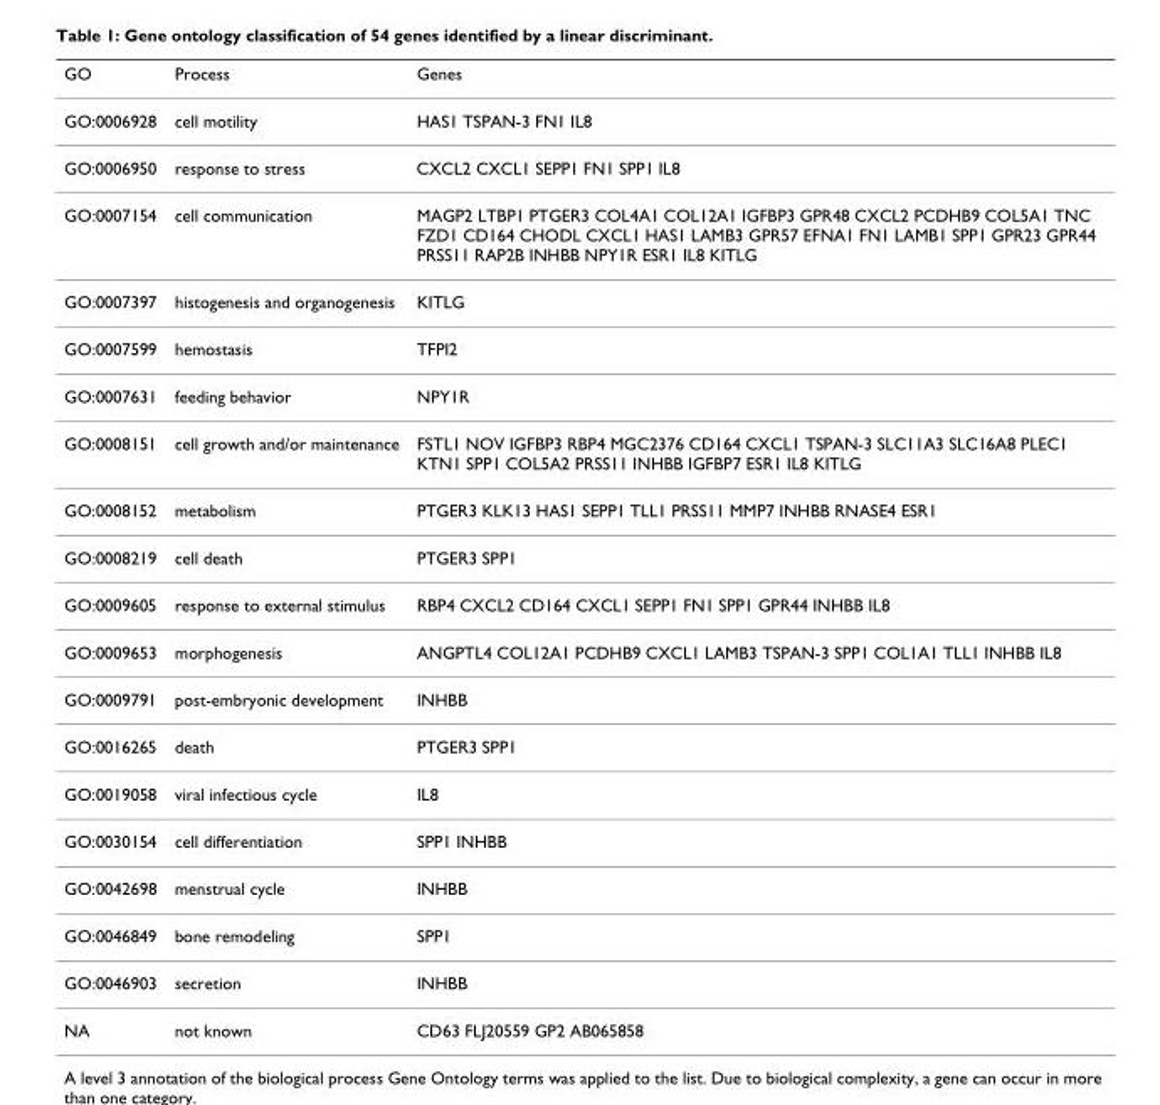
<table><thead><tr><td>GO</td><td>Process</td><td>Genes</td></tr></thead><tbody><tr><td>GO:0006928</td><td>cell motility</td><td>HAS1 TSPAN-3 FN1 IL8</td></tr><tr><td>GO:0006950</td><td>response to stress</td><td>CXCL2 CXCL1 SEPP1 FN1 SPP1 IL8</td></tr><tr><td>GO:0007154</td><td>cell communication</td><td>MAGP2 LTBP1 PTGER3 COL4A1 COL12A1 IGFBP3 GPR48 CXCL2 PCDHB9 COL5A1 TNC FZD1 CD164 CHODL CXCL1 HAS1 LAMB3 GPR57 EFNA1 FN1 LAMB1 SPP1 GPR23 GPR44 PRSS11 RAP2B INHBB NPY1R ESR1 IL8 KITLG</td></tr><tr><td>GO:0007397</td><td>histogenesis and organogenesis</td><td>KITLG</td></tr><tr><td>GO:0007599</td><td>hemostasis</td><td>TFPI2</td></tr><tr><td>GO:0007631</td><td>feeding behavior</td><td>NPY1R</td></tr><tr><td>GO:0008151</td><td>cell growth and/or maintenance</td><td>FSTL1 NOV IGFBP3 RBP4 MGC2376 CD164 CXCL1 TSPAN-3 SLC11A3 SLC16A8 PLEC1 KTN1 SPP1 COL5A2 PRSS11 INHBB IGFBP7 ESR1 IL8 KITLG</td></tr><tr><td>GO:0008152</td><td>metabolism</td><td>PTGER3 KLK13 HAS1 SEPP1 TLL1 PRSS11 MMP7 INHBB RNASE4 ESR1</td></tr><tr><td>GO:0008219</td><td>cell death</td><td>PTGER3 SPP1</td></tr><tr><td>GO:0009605</td><td>response to external stimulus</td><td>RBP4 CXCL2 CD164 CXCL1 SEPP1 FN1 SPP1 GPR44 INHBB IL8</td></tr><tr><td>GO:0009653</td><td>morphogenesis</td><td>ANGPTL4 COL12A1 PCDHB9 CXCL1 LAMB3 TSPAN-3 SPP1 COL1A1 TLL1 INHBB IL8</td></tr><tr><td>GO:0009791</td><td>post-embryonic development</td><td>INHBB</td></tr><tr><td>GO:0016265</td><td>death</td><td>PTGER3 SPP1</td></tr><tr><td>GO:0019058</td><td>viral infectious cycle</td><td>IL8</td></tr><tr><td>GO:0030154</td><td>cell differentiation</td><td>SPP1 INHBB</td></tr><tr><td>GO:0042698</td><td>menstrual cycle</td><td>INHBB</td></tr><tr><td>GO:0046849</td><td>bone remodeling</td><td>SPP1</td></tr><tr><td>GO:0046903</td><td>secretion</td><td>INHBB</td></tr><tr><td>NA</td><td>not known</td><td>CD63 FLJ20559 GP2 AB065858</td></tr></tbody></table>